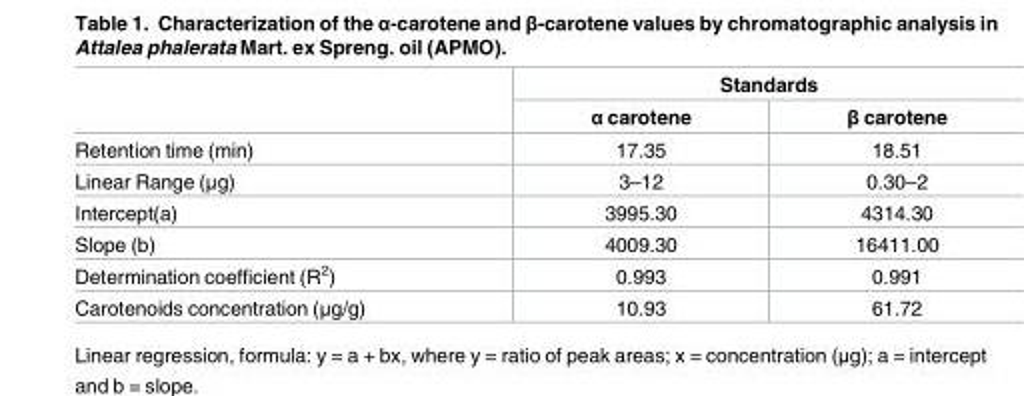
<table><thead><tr><td rowspan="2"></td><td colspan="2">Standards</td></tr><tr><td>α carotene</td><td>β carotene</td></tr></thead><tbody><tr><td>Retention time (min)</td><td>17.35</td><td>18.51</td></tr><tr><td>Linear Range (μg)</td><td>3–12</td><td>0.30–2</td></tr><tr><td>Intercept(a)</td><td>3995.30</td><td>4314.30</td></tr><tr><td>Slope (b)</td><td>4009.30</td><td>16411.00</td></tr><tr><td>Determination coefficient (R<sup>2</sup>)</td><td>0.993</td><td>0.991</td></tr><tr><td>Carotenoids concentration (μg/g)</td><td>10.93</td><td>61.72</td></tr></tbody></table>